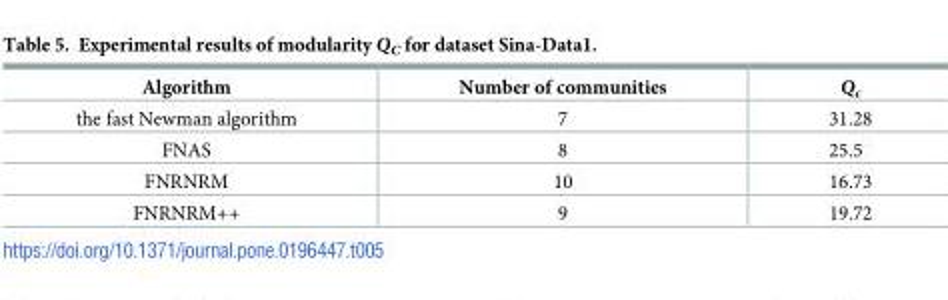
<table><thead><tr><td>Algorithm</td><td>Number of communities</td><td>Q<sub>c</sub></td></tr></thead><tbody><tr><td>the fast Newman algorithm</td><td>7</td><td>31.28</td></tr><tr><td>FNAS</td><td>8</td><td>25.5</td></tr><tr><td>FNRNRM</td><td>10</td><td>16.73</td></tr><tr><td>FNRNRM++</td><td>9</td><td>19.72</td></tr></tbody></table>